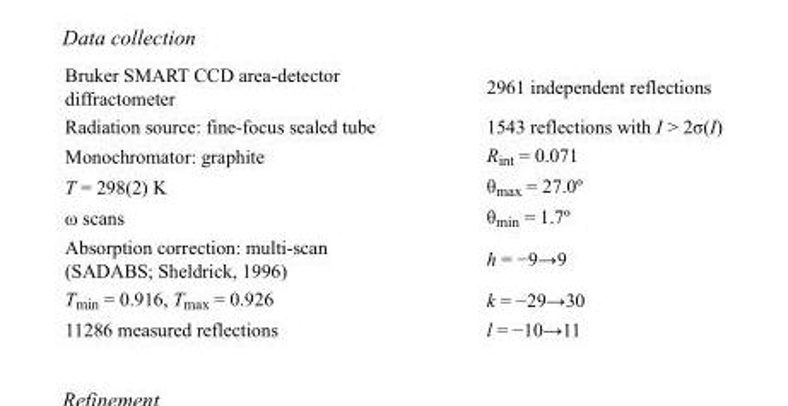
<table><tbody><tr><td>Bruker SMART CCD area-detector diffractometer</td><td>2961 independent reflections</td></tr><tr><td>Radiation source: fine-focus sealed tube</td><td>1543 reflections with I &gt; 2σ(I)</td></tr><tr><td>Monochromator: graphite</td><td>R<sub>int</sub> = 0.071</td></tr><tr><td>T = 298(2) K</td><td>θ<sub>max</sub> = 27.0º</td></tr><tr><td>ω scans</td><td>θ<sub>min</sub> = 1.7º</td></tr><tr><td>Absorption correction: multi-scan (SADABS; Sheldrick, 1996)</td><td>h = −9→9</td></tr><tr><td>T<sub>min</sub> = 0.916, T<sub>max</sub> = 0.926</td><td>k = −29→30</td></tr><tr><td>11286 measured reflections</td><td>l = −10→11</td></tr></tbody></table>